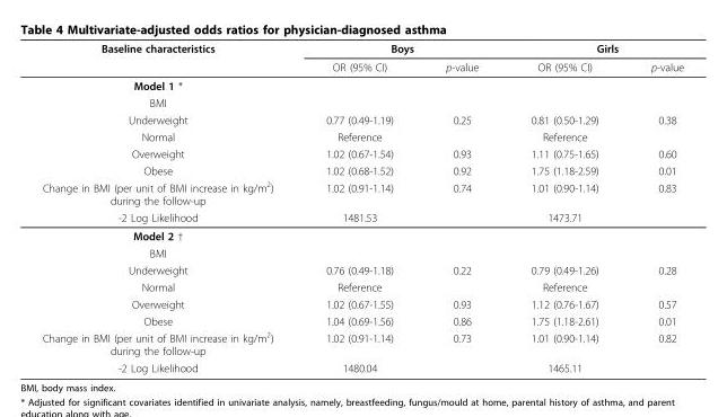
<table><thead><tr><td rowspan="2">Baseline characteristics</td><td colspan="2">Boys</td><td colspan="2">Girls</td></tr><tr><td>OR (95% CI)</td><td>p-value</td><td>OR (95% CI)</td><td>p-value</td></tr></thead><tbody><tr><td colspan="5">Model 1 *</td></tr><tr><td colspan="5">BMI</td></tr><tr><td>Underweight</td><td>0.77 (0.49-1.19)</td><td>0.25</td><td>0.81 (0.50-1.29)</td><td>0.38</td></tr><tr><td>Normal</td><td>Reference</td><td></td><td>Reference</td><td></td></tr><tr><td>Overweight</td><td>1.02 (0.67-1.54)</td><td>0.93</td><td>1.11 (0.75-1.65)</td><td>0.60</td></tr><tr><td>Obese</td><td>1.02 (0.68-1.52)</td><td>0.92</td><td>1.75 (1.18-2.59)</td><td>0.01</td></tr><tr><td>Change in BMI (per unit of BMI increase in kg/m<sup>2</sup>) during the follow-up</td><td>1.02 (0.91-1.14)</td><td>0.74</td><td>1.01 (0.90-1.14)</td><td>0.83</td></tr><tr><td>-2 Log Likelihood</td><td>1481.53</td><td></td><td>1473.71</td><td></td></tr><tr><td colspan="5">Model 2 †</td></tr><tr><td colspan="5">BMI</td></tr><tr><td>Underweight</td><td>0.76 (0.49-1.18)</td><td>0.22</td><td>0.79 (0.49-1.26)</td><td>0.28</td></tr><tr><td>Normal</td><td>Reference</td><td></td><td>Reference</td><td></td></tr><tr><td>Overweight</td><td>1.02 (0.67-1.55)</td><td>0.93</td><td>1.12 (0.76-1.67)</td><td>0.57</td></tr><tr><td>Obese</td><td>1.04 (0.69-1.56)</td><td>0.86</td><td>1.75 (1.18-2.61)</td><td>0.01</td></tr><tr><td>Change in BMI (per unit of BMI increase in kg/m<sup>2</sup>) during the follow-up</td><td>1.02 (0.91-1.14)</td><td>0.73</td><td>1.01 (0.90-1.14)</td><td>0.82</td></tr><tr><td>-2 Log Likelihood</td><td>1480.04</td><td></td><td>1465.11</td><td></td></tr></tbody></table>